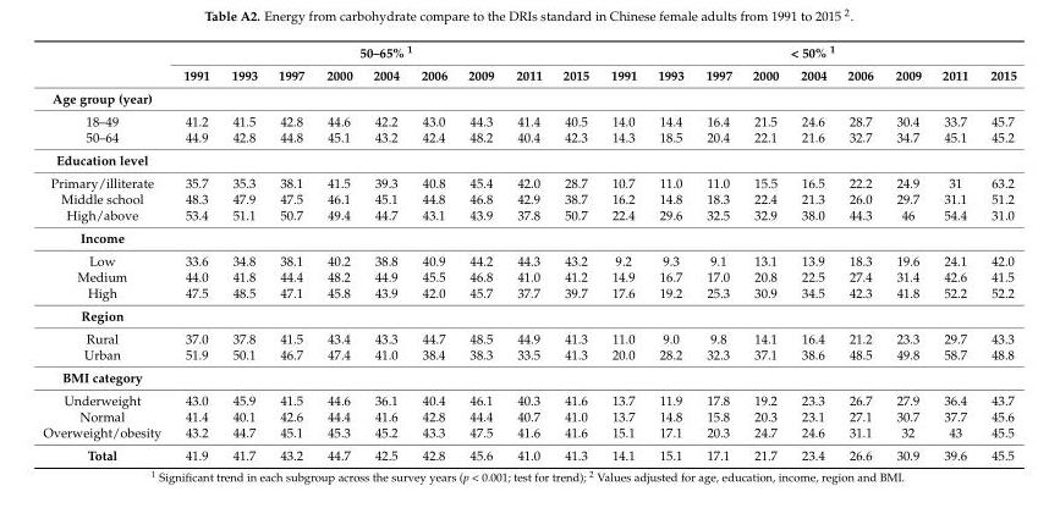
<table><thead><tr><td rowspan="2"></td><td colspan="9">50–65% <sup>1</sup></td><td colspan="9">&lt; 50% <sup>1</sup></td></tr><tr><td>1991</td><td>1993</td><td>1997</td><td>2000</td><td>2004</td><td>2006</td><td>2009</td><td>2011</td><td>2015</td><td>1991</td><td>1993</td><td>1997</td><td>2000</td><td>2004</td><td>2006</td><td>2009</td><td>2011</td><td>2015</td></tr></thead><tbody><tr><td colspan="19">Age group (year)</td></tr><tr><td>18–49</td><td>41.2</td><td>41.5</td><td>42.8</td><td>44.6</td><td>42.2</td><td>43.0</td><td>44.3</td><td>41.4</td><td>40.5</td><td>14.0</td><td>14.4</td><td>16.4</td><td>21.5</td><td>24.6</td><td>28.7</td><td>30.4</td><td>33.7</td><td>45.7</td></tr><tr><td>50–64</td><td>44.9</td><td>42.8</td><td>44.8</td><td>45.1</td><td>43.2</td><td>42.4</td><td>48.2</td><td>40.4</td><td>42.3</td><td>14.3</td><td>18.5</td><td>20.4</td><td>22.1</td><td>21.6</td><td>32.7</td><td>34.7</td><td>45.1</td><td>45.2</td></tr><tr><td colspan="19">Education level</td></tr><tr><td>Primary/illiterate</td><td>35.7</td><td>35.3</td><td>38.1</td><td>41.5</td><td>39.3</td><td>40.8</td><td>45.4</td><td>42.0</td><td>28.7</td><td>10.7</td><td>11.0</td><td>11.0</td><td>15.5</td><td>16.5</td><td>22.2</td><td>24.9</td><td>31</td><td>63.2</td></tr><tr><td>Middle school</td><td>48.3</td><td>47.9</td><td>47.5</td><td>46.1</td><td>45.1</td><td>44.8</td><td>46.8</td><td>42.9</td><td>38.7</td><td>16.2</td><td>14.8</td><td>18.3</td><td>22.4</td><td>21.3</td><td>26.0</td><td>29.7</td><td>31.1</td><td>51.2</td></tr><tr><td>High/above</td><td>53.4</td><td>51.1</td><td>50.7</td><td>49.4</td><td>44.7</td><td>43.1</td><td>43.9</td><td>37.8</td><td>50.7</td><td>22.4</td><td>29.6</td><td>32.5</td><td>32.9</td><td>38.0</td><td>44.3</td><td>46</td><td>54.4</td><td>31.0</td></tr><tr><td colspan="19">Income</td></tr><tr><td>Low</td><td>33.6</td><td>34.8</td><td>38.1</td><td>40.2</td><td>38.8</td><td>40.9</td><td>44.2</td><td>44.3</td><td>43.2</td><td>9.2</td><td>9.3</td><td>9.1</td><td>13.1</td><td>13.9</td><td>18.3</td><td>19.6</td><td>24.1</td><td>42.0</td></tr><tr><td>Medium</td><td>44.0</td><td>41.8</td><td>44.4</td><td>48.2</td><td>44.9</td><td>45.5</td><td>46.8</td><td>41.0</td><td>41.2</td><td>14.9</td><td>16.7</td><td>17.0</td><td>20.8</td><td>22.5</td><td>27.4</td><td>31.4</td><td>42.6</td><td>41.5</td></tr><tr><td>High</td><td>47.5</td><td>48.5</td><td>47.1</td><td>45.8</td><td>43.9</td><td>42.0</td><td>45.7</td><td>37.7</td><td>39.7</td><td>17.6</td><td>19.2</td><td>25.3</td><td>30.9</td><td>34.5</td><td>42.3</td><td>41.8</td><td>52.2</td><td>52.2</td></tr><tr><td colspan="19">Region</td></tr><tr><td>Rural</td><td>37.0</td><td>37.8</td><td>41.5</td><td>43.4</td><td>43.3</td><td>44.7</td><td>48.5</td><td>44.9</td><td>41.3</td><td>11.0</td><td>9.0</td><td>9.8</td><td>14.1</td><td>16.4</td><td>21.2</td><td>23.3</td><td>29.7</td><td>43.3</td></tr><tr><td>Urban</td><td>51.9</td><td>50.1</td><td>46.7</td><td>47.4</td><td>41.0</td><td>38.4</td><td>38.3</td><td>33.5</td><td>41.3</td><td>20.0</td><td>28.2</td><td>32.3</td><td>37.1</td><td>38.6</td><td>48.5</td><td>49.8</td><td>58.7</td><td>48.8</td></tr><tr><td colspan="19">BMI category</td></tr><tr><td>Underweight</td><td>43.0</td><td>45.9</td><td>41.5</td><td>44.6</td><td>36.1</td><td>40.4</td><td>46.1</td><td>40.3</td><td>41.6</td><td>13.7</td><td>11.9</td><td>17.8</td><td>19.2</td><td>23.3</td><td>26.7</td><td>27.9</td><td>36.4</td><td>43.7</td></tr><tr><td>Normal</td><td>41.4</td><td>40.1</td><td>42.6</td><td>44.4</td><td>41.6</td><td>42.8</td><td>44.4</td><td>40.7</td><td>41.0</td><td>13.7</td><td>14.8</td><td>15.8</td><td>20.3</td><td>23.1</td><td>27.1</td><td>30.7</td><td>37.7</td><td>45.6</td></tr><tr><td>Overweight/obesity</td><td>43.2</td><td>44.7</td><td>45.1</td><td>45.3</td><td>45.2</td><td>43.3</td><td>47.5</td><td>41.6</td><td>41.6</td><td>15.1</td><td>17.1</td><td>20.3</td><td>24.7</td><td>24.6</td><td>31.1</td><td>32</td><td>43</td><td>45.5</td></tr><tr><td>Total</td><td>41.9</td><td>41.7</td><td>43.2</td><td>44.7</td><td>42.5</td><td>42.8</td><td>45.6</td><td>41.0</td><td>41.3</td><td>14.1</td><td>15.1</td><td>17.1</td><td>21.7</td><td>23.4</td><td>26.6</td><td>30.9</td><td>39.6</td><td>45.5</td></tr></tbody></table>